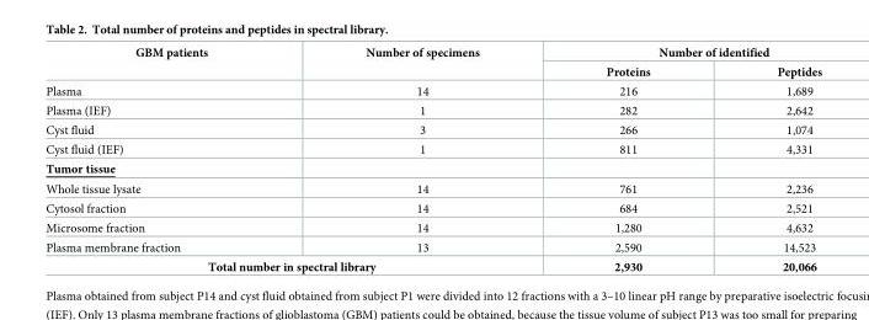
<table><thead><tr><td rowspan="2">GBM patients</td><td rowspan="2">Number of specimens</td><td colspan="2">Number of identified</td></tr><tr><td>Proteins</td><td>Peptides</td></tr></thead><tbody><tr><td>Plasma</td><td>14</td><td>216</td><td>1,689</td></tr><tr><td>Plasma (IEF)</td><td>1</td><td>282</td><td>2,642</td></tr><tr><td>Cyst fluid</td><td>3</td><td>266</td><td>1,074</td></tr><tr><td>Cyst fluid (IEF)</td><td>1</td><td>811</td><td>4,331</td></tr><tr><td colspan="4">Tumor tissue</td></tr><tr><td>Whole tissue lysate</td><td>14</td><td>761</td><td>2,236</td></tr><tr><td>Cytosol fraction</td><td>14</td><td>684</td><td>2,521</td></tr><tr><td>Microsome fraction</td><td>14</td><td>1,280</td><td>4,632</td></tr><tr><td>Plasma membrane fraction</td><td>13</td><td>2,590</td><td>14,523</td></tr><tr><td colspan="2">Total number in spectral library</td><td>2,930</td><td>20,066</td></tr></tbody></table>